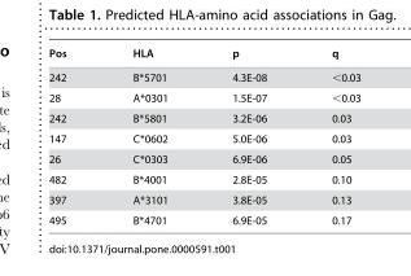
<table><thead><tr><td>Pos</td><td>HLA</td><td>p</td><td>q</td></tr></thead><tbody><tr><td>242</td><td>B*5701</td><td>4.3E-08</td><td>&lt;0.03</td></tr><tr><td>28</td><td>A*0301</td><td>1.5E-07</td><td>&lt;0.03</td></tr><tr><td>242</td><td>B*5801</td><td>3.2E-06</td><td>0.03</td></tr><tr><td>147</td><td>C*0602</td><td>5.0E-06</td><td>0.03</td></tr><tr><td>26</td><td>C*0303</td><td>6.9E-06</td><td>0.05</td></tr><tr><td>482</td><td>B*4001</td><td>2.8E-05</td><td>0.10</td></tr><tr><td>397</td><td>A*3101</td><td>3.8E-05</td><td>0.13</td></tr><tr><td>495</td><td>B*4701</td><td>6.9E-05</td><td>0.17</td></tr></tbody></table>